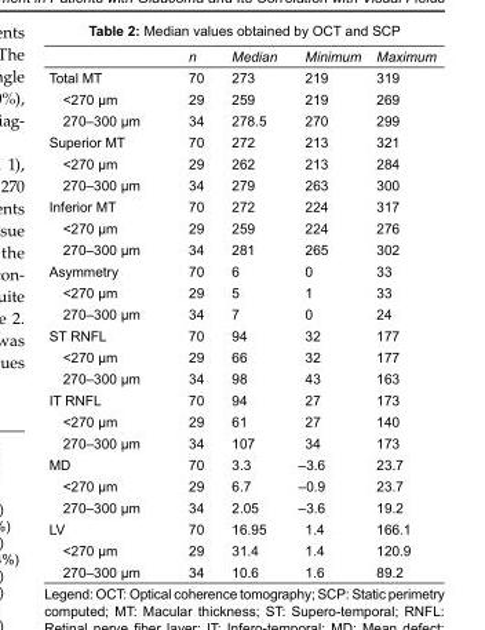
<table><thead><tr><td></td><td>n</td><td>Median</td><td>Minimum</td><td>Maximum</td></tr></thead><tbody><tr><td>Total MT</td><td>70</td><td>273</td><td>219</td><td>319</td></tr><tr><td>&lt;270 μm</td><td>29</td><td>259</td><td>219</td><td>269</td></tr><tr><td>270–300 μm</td><td>34</td><td>278.5</td><td>270</td><td>299</td></tr><tr><td>Superior MT</td><td>70</td><td>272</td><td>213</td><td>321</td></tr><tr><td>&lt;270 μm</td><td>29</td><td>262</td><td>213</td><td>284</td></tr><tr><td>270–300 μm</td><td>34</td><td>279</td><td>263</td><td>300</td></tr><tr><td>Inferior MT</td><td>70</td><td>272</td><td>224</td><td>317</td></tr><tr><td>&lt;270 μm</td><td>29</td><td>259</td><td>224</td><td>276</td></tr><tr><td>270–300 μm</td><td>34</td><td>281</td><td>265</td><td>302</td></tr><tr><td>Asymmetry</td><td>70</td><td>6</td><td>0</td><td>33</td></tr><tr><td>&lt;270 μm</td><td>29</td><td>5</td><td>1</td><td>33</td></tr><tr><td>270–300 μm</td><td>34</td><td>7</td><td>0</td><td>24</td></tr><tr><td>ST RNFL</td><td>70</td><td>94</td><td>32</td><td>177</td></tr><tr><td>&lt;270 μm</td><td>29</td><td>66</td><td>32</td><td>177</td></tr><tr><td>270–300 μm</td><td>34</td><td>98</td><td>43</td><td>163</td></tr><tr><td>IT RNFL</td><td>70</td><td>94</td><td>27</td><td>173</td></tr><tr><td>&lt;270 μm</td><td>29</td><td>61</td><td>27</td><td>140</td></tr><tr><td>270–300 μm</td><td>34</td><td>107</td><td>34</td><td>173</td></tr><tr><td>MD</td><td>70</td><td>3.3</td><td>–3.6</td><td>23.7</td></tr><tr><td>&lt;270 μm</td><td>29</td><td>6.7</td><td>–0.9</td><td>23.7</td></tr><tr><td>270–300 μm</td><td>34</td><td>2.05</td><td>–3.6</td><td>19.2</td></tr><tr><td>LV</td><td>70</td><td>16.95</td><td>1.4</td><td>166.1</td></tr><tr><td>&lt;270 μm</td><td>29</td><td>31.4</td><td>1.4</td><td>120.9</td></tr><tr><td>270–300 μm</td><td>34</td><td>10.6</td><td>1.6</td><td>89.2</td></tr></tbody></table>